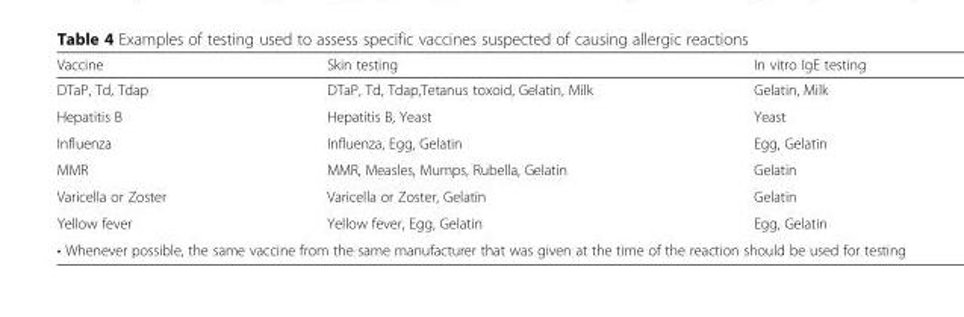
<table><thead><tr><td>Vaccine</td><td>Skin testing</td><td>In vitro IgE testing</td></tr></thead><tbody><tr><td>DTaP, Td, Tdap</td><td>DTaP, Td, Tdap,Tetanus toxoid, Gelatin, Milk</td><td>Gelatin, Milk</td></tr><tr><td>Hepatitis B</td><td>Hepatitis B, Yeast</td><td>Yeast</td></tr><tr><td>Influenza</td><td>Influenza, Egg, Gelatin</td><td>Egg, Gelatin</td></tr><tr><td>MMR</td><td>MMR, Measles, Mumps, Rubella, Gelatin</td><td>Gelatin</td></tr><tr><td>Varicella or Zoster</td><td>Varicella or Zoster, Gelatin</td><td>Gelatin</td></tr><tr><td>Yellow fever</td><td>Yellow fever, Egg, Gelatin</td><td>Egg, Gelatin</td></tr><tr><td colspan="3">• Whenever possible, the same vaccine from the same manufacturer that was given at the time of the reaction should be used for testing</td></tr></tbody></table>